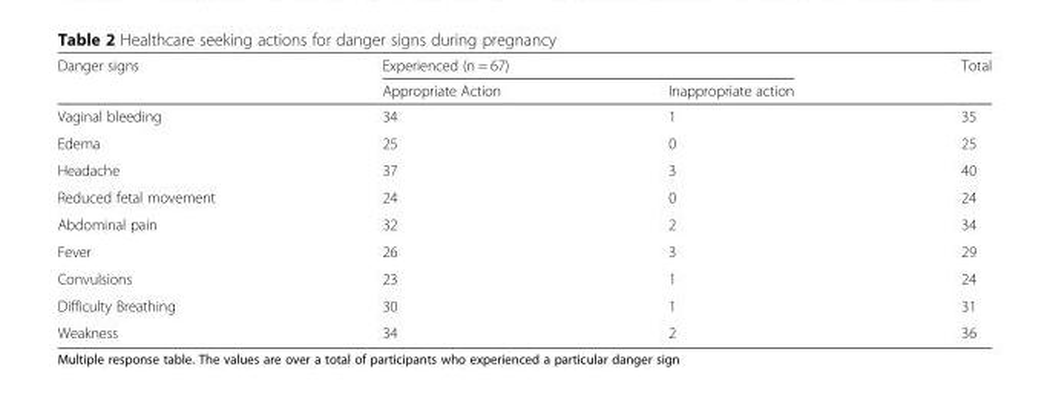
<table><thead><tr><td rowspan="2">Danger signs</td><td colspan="2">Experienced (n = 67)</td><td rowspan="2">Total</td></tr><tr><td>Appropriate Action</td><td>Inappropriate action</td></tr></thead><tbody><tr><td>Vaginal bleeding</td><td>34</td><td>1</td><td>35</td></tr><tr><td>Edema</td><td>25</td><td>0</td><td>25</td></tr><tr><td>Headache</td><td>37</td><td>3</td><td>40</td></tr><tr><td>Reduced fetal movement</td><td>24</td><td>0</td><td>24</td></tr><tr><td>Abdominal pain</td><td>32</td><td>2</td><td>34</td></tr><tr><td>Fever</td><td>26</td><td>3</td><td>29</td></tr><tr><td>Convulsions</td><td>23</td><td>1</td><td>24</td></tr><tr><td>Difficulty Breathing</td><td>30</td><td>1</td><td>31</td></tr><tr><td>Weakness</td><td>34</td><td>2</td><td>36</td></tr></tbody></table>